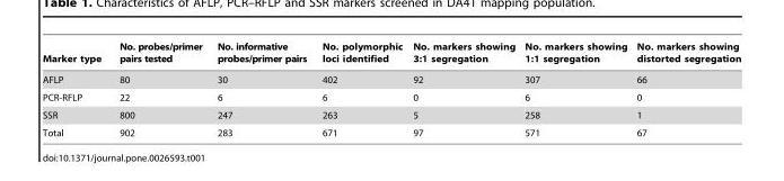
<table><thead><tr><td>Marker type</td><td>No. probes/primer pairs tested</td><td>No. informative probes/primer pairs</td><td>No. polymorphic loci identified</td><td>No. markers showing 3:1 segregation</td><td>No. markers showing 1:1 segregation</td><td>No. markers showing distorted segregation</td></tr></thead><tbody><tr><td>AFLP</td><td>80</td><td>30</td><td>402</td><td>92</td><td>307</td><td>66</td></tr><tr><td>PCR-RFLP</td><td>22</td><td>6</td><td>6</td><td>0</td><td>6</td><td>0</td></tr><tr><td>SSR</td><td>800</td><td>247</td><td>263</td><td>5</td><td>258</td><td>1</td></tr><tr><td>Total</td><td>902</td><td>283</td><td>671</td><td>97</td><td>571</td><td>67</td></tr></tbody></table>